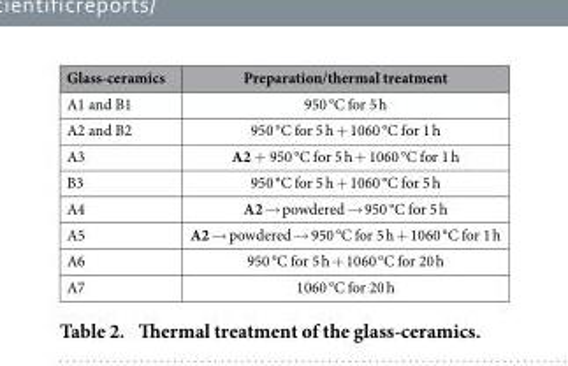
<table><thead><tr><td>Glass-ceramics</td><td>Preparation/thermal treatment</td></tr></thead><tbody><tr><td>A1 and B1</td><td>950 °C for 5 h</td></tr><tr><td>A2 and B2</td><td>950 °C for 5 h + 1060 °C for 1 h</td></tr><tr><td>A3</td><td>A2 + 950 °C for 5 h + 1060 °C for 1 h</td></tr><tr><td>B3</td><td>950 °C for 5 h + 1060 °C for 5 h</td></tr><tr><td>A4</td><td>A2 → powdered → 950 °C for 5 h</td></tr><tr><td>A5</td><td>A2 → powdered → 950 °C for 5 h + 1060 °C for 1 h</td></tr><tr><td>A6</td><td>950 °C for 5 h + 1060 °C for 20 h</td></tr><tr><td>A7</td><td>1060 °C for 20 h</td></tr></tbody></table>